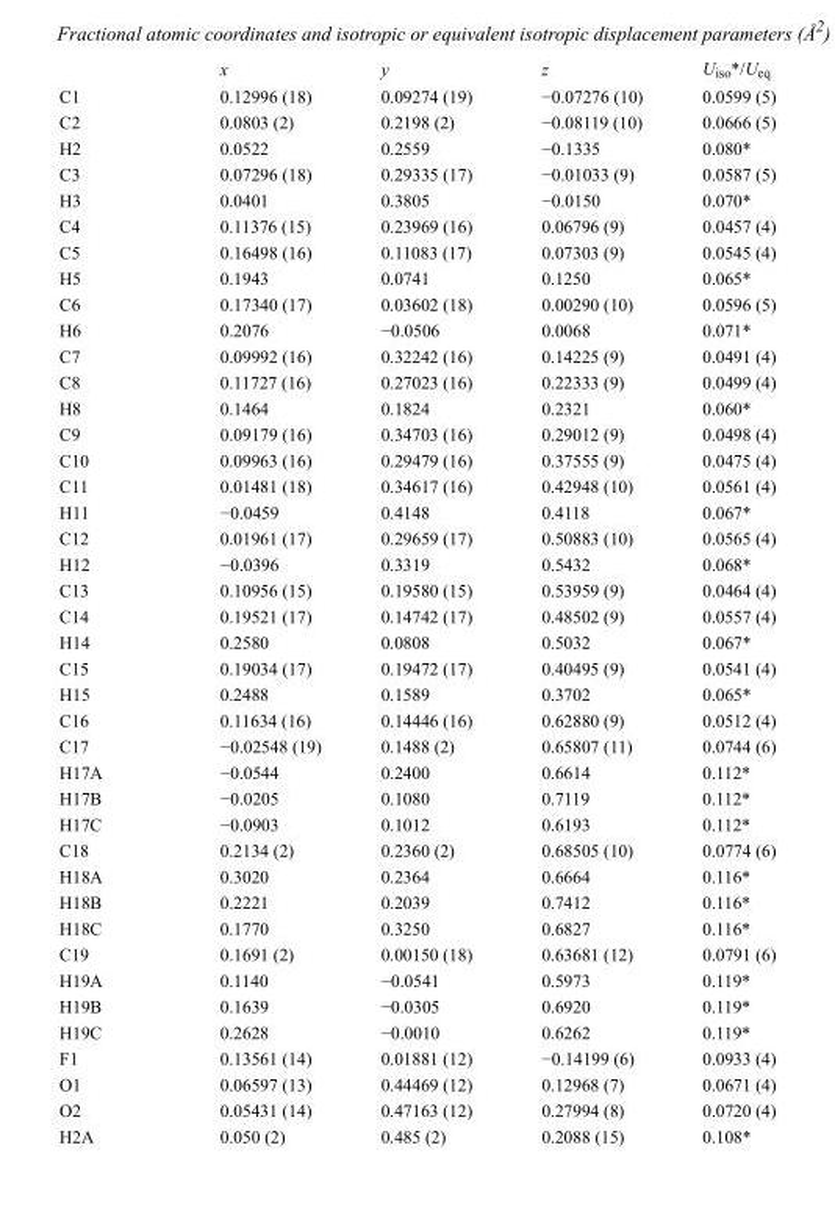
<table><thead><tr><td></td><td>x</td><td>y</td><td>z</td><td>U<sub>iso</sub>*/U<sub>eq</sub></td></tr></thead><tbody><tr><td>C1</td><td>0.12996 (18)</td><td>0.09274 (19)</td><td>−0.07276 (10)</td><td>0.0599 (5)</td></tr><tr><td>C2</td><td>0.0803 (2)</td><td>0.2198 (2)</td><td>−0.08119 (10)</td><td>0.0666 (5)</td></tr><tr><td>H2</td><td>0.0522</td><td>0.2559</td><td>−0.1335</td><td>0.080*</td></tr><tr><td>C3</td><td>0.07296 (18)</td><td>0.29335 (17)</td><td>−0.01033 (9)</td><td>0.0587 (5)</td></tr><tr><td>H3</td><td>0.0401</td><td>0.3805</td><td>−0.0150</td><td>0.070*</td></tr><tr><td>C4</td><td>0.11376 (15)</td><td>0.23969 (16)</td><td>0.06796 (9)</td><td>0.0457 (4)</td></tr><tr><td>C5</td><td>0.16498 (16)</td><td>0.11083 (17)</td><td>0.07303 (9)</td><td>0.0545 (4)</td></tr><tr><td>H5</td><td>0.1943</td><td>0.0741</td><td>0.1250</td><td>0.065*</td></tr><tr><td>C6</td><td>0.17340 (17)</td><td>0.03602 (18)</td><td>0.00290 (10)</td><td>0.0596 (5)</td></tr><tr><td>H6</td><td>0.2076</td><td>−0.0506</td><td>0.0068</td><td>0.071*</td></tr><tr><td>C7</td><td>0.09992 (16)</td><td>0.32242 (16)</td><td>0.14225 (9)</td><td>0.0491 (4)</td></tr><tr><td>C8</td><td>0.11727 (16)</td><td>0.27023 (16)</td><td>0.22333 (9)</td><td>0.0499 (4)</td></tr><tr><td>H8</td><td>0.1464</td><td>0.1824</td><td>0.2321</td><td>0.060*</td></tr><tr><td>C9</td><td>0.09179 (16)</td><td>0.34703 (16)</td><td>0.29012 (9)</td><td>0.0498 (4)</td></tr><tr><td>C10</td><td>0.09963 (16)</td><td>0.29479 (16)</td><td>0.37555 (9)</td><td>0.0475 (4)</td></tr><tr><td>C11</td><td>0.01481 (18)</td><td>0.34617 (16)</td><td>0.42948 (10)</td><td>0.0561 (4)</td></tr><tr><td>H11</td><td>−0.0459</td><td>0.4148</td><td>0.4118</td><td>0.067*</td></tr><tr><td>C12</td><td>0.01961 (17)</td><td>0.29659 (17)</td><td>0.50883 (10)</td><td>0.0565 (4)</td></tr><tr><td>H12</td><td>−0.0396</td><td>0.3319</td><td>0.5432</td><td>0.068*</td></tr><tr><td>C13</td><td>0.10956 (15)</td><td>0.19580 (15)</td><td>0.53959 (9)</td><td>0.0464 (4)</td></tr><tr><td>C14</td><td>0.19521 (17)</td><td>0.14742 (17)</td><td>0.48502 (9)</td><td>0.0557 (4)</td></tr><tr><td>H14</td><td>0.2580</td><td>0.0808</td><td>0.5032</td><td>0.067*</td></tr><tr><td>C15</td><td>0.19034 (17)</td><td>0.19472 (17)</td><td>0.40495 (9)</td><td>0.0541 (4)</td></tr><tr><td>H15</td><td>0.2488</td><td>0.1589</td><td>0.3702</td><td>0.065*</td></tr><tr><td>C16</td><td>0.11634 (16)</td><td>0.14446 (16)</td><td>0.62880 (9)</td><td>0.0512 (4)</td></tr><tr><td>C17</td><td>−0.02548 (19)</td><td>0.1488 (2)</td><td>0.65807 (11)</td><td>0.0744 (6)</td></tr><tr><td>H17A</td><td>−0.0544</td><td>0.2400</td><td>0.6614</td><td>0.112*</td></tr><tr><td>H17B</td><td>−0.0205</td><td>0.1080</td><td>0.7119</td><td>0.112*</td></tr><tr><td>H17C</td><td>−0.0903</td><td>0.1012</td><td>0.6193</td><td>0.112*</td></tr><tr><td>C18</td><td>0.2134 (2)</td><td>0.2360 (2)</td><td>0.68505 (10)</td><td>0.0774 (6)</td></tr><tr><td>H18A</td><td>0.3020</td><td>0.2364</td><td>0.6664</td><td>0.116*</td></tr><tr><td>H18B</td><td>0.2221</td><td>0.2039</td><td>0.7412</td><td>0.116*</td></tr><tr><td>H18C</td><td>0.1770</td><td>0.3250</td><td>0.6827</td><td>0.116*</td></tr><tr><td>C19</td><td>0.1691 (2)</td><td>0.00150 (18)</td><td>0.63681 (12)</td><td>0.0791 (6)</td></tr><tr><td>H19A</td><td>0.1140</td><td>−0.0541</td><td>0.5973</td><td>0.119*</td></tr><tr><td>H19B</td><td>0.1639</td><td>−0.0305</td><td>0.6920</td><td>0.119*</td></tr><tr><td>H19C</td><td>0.2628</td><td>−0.0010</td><td>0.6262</td><td>0.119*</td></tr><tr><td>F1</td><td>0.13561 (14)</td><td>0.01881 (12)</td><td>−0.14199 (6)</td><td>0.0933 (4)</td></tr><tr><td>O1</td><td>0.06597 (13)</td><td>0.44469 (12)</td><td>0.12968 (7)</td><td>0.0671 (4)</td></tr><tr><td>O2</td><td>0.05431 (14)</td><td>0.47163 (12)</td><td>0.27994 (8)</td><td>0.0720 (4)</td></tr><tr><td>H2A</td><td>0.050 (2)</td><td>0.485 (2)</td><td>0.2088 (15)</td><td>0.108*</td></tr></tbody></table>